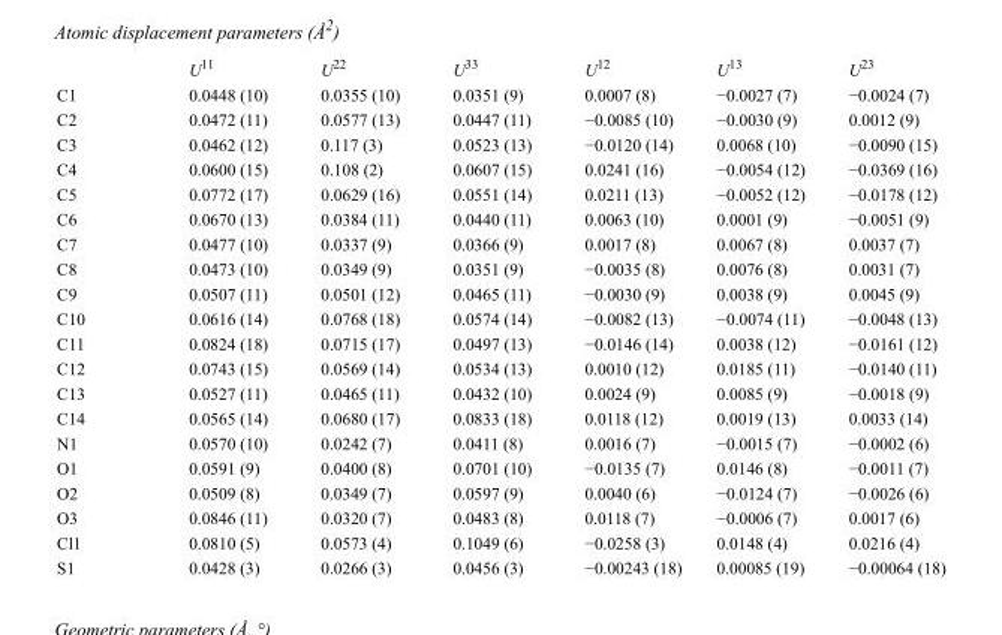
<table><thead><tr><td></td><td>U<sup>11</sup></td><td>U<sup>22</sup></td><td>U<sup>33</sup></td><td>U<sup>12</sup></td><td>U<sup>13</sup></td><td>U<sup>23</sup></td></tr></thead><tbody><tr><td>C1</td><td>0.0448 (10)</td><td>0.0355 (10)</td><td>0.0351 (9)</td><td>0.0007 (8)</td><td>−0.0027 (7)</td><td>−0.0024 (7)</td></tr><tr><td>C2</td><td>0.0472 (11)</td><td>0.0577 (13)</td><td>0.0447 (11)</td><td>−0.0085 (10)</td><td>−0.0030 (9)</td><td>0.0012 (9)</td></tr><tr><td>C3</td><td>0.0462 (12)</td><td>0.117 (3)</td><td>0.0523 (13)</td><td>−0.0120 (14)</td><td>0.0068 (10)</td><td>−0.0090 (15)</td></tr><tr><td>C4</td><td>0.0600 (15)</td><td>0.108 (2)</td><td>0.0607 (15)</td><td>0.0241 (16)</td><td>−0.0054 (12)</td><td>−0.0369 (16)</td></tr><tr><td>C5</td><td>0.0772 (17)</td><td>0.0629 (16)</td><td>0.0551 (14)</td><td>0.0211 (13)</td><td>−0.0052 (12)</td><td>−0.0178 (12)</td></tr><tr><td>C6</td><td>0.0670 (13)</td><td>0.0384 (11)</td><td>0.0440 (11)</td><td>0.0063 (10)</td><td>0.0001 (9)</td><td>−0.0051 (9)</td></tr><tr><td>C7</td><td>0.0477 (10)</td><td>0.0337 (9)</td><td>0.0366 (9)</td><td>0.0017 (8)</td><td>0.0067 (8)</td><td>0.0037 (7)</td></tr><tr><td>C8</td><td>0.0473 (10)</td><td>0.0349 (9)</td><td>0.0351 (9)</td><td>−0.0035 (8)</td><td>0.0076 (8)</td><td>0.0031 (7)</td></tr><tr><td>C9</td><td>0.0507 (11)</td><td>0.0501 (12)</td><td>0.0465 (11)</td><td>−0.0030 (9)</td><td>0.0038 (9)</td><td>0.0045 (9)</td></tr><tr><td>C10</td><td>0.0616 (14)</td><td>0.0768 (18)</td><td>0.0574 (14)</td><td>−0.0082 (13)</td><td>−0.0074 (11)</td><td>−0.0048 (13)</td></tr><tr><td>C11</td><td>0.0824 (18)</td><td>0.0715 (17)</td><td>0.0497 (13)</td><td>−0.0146 (14)</td><td>0.0038 (12)</td><td>−0.0161 (12)</td></tr><tr><td>C12</td><td>0.0743 (15)</td><td>0.0569 (14)</td><td>0.0534 (13)</td><td>0.0010 (12)</td><td>0.0185 (11)</td><td>−0.0140 (11)</td></tr><tr><td>C13</td><td>0.0527 (11)</td><td>0.0465 (11)</td><td>0.0432 (10)</td><td>0.0024 (9)</td><td>0.0085 (9)</td><td>−0.0018 (9)</td></tr><tr><td>C14</td><td>0.0565 (14)</td><td>0.0680 (17)</td><td>0.0833 (18)</td><td>0.0118 (12)</td><td>0.0019 (13)</td><td>0.0033 (14)</td></tr><tr><td>N1</td><td>0.0570 (10)</td><td>0.0242 (7)</td><td>0.0411 (8)</td><td>0.0016 (7)</td><td>−0.0015 (7)</td><td>−0.0002 (6)</td></tr><tr><td>O1</td><td>0.0591 (9)</td><td>0.0400 (8)</td><td>0.0701 (10)</td><td>−0.0135 (7)</td><td>0.0146 (8)</td><td>−0.0011 (7)</td></tr><tr><td>O2</td><td>0.0509 (8)</td><td>0.0349 (7)</td><td>0.0597 (9)</td><td>0.0040 (6)</td><td>−0.0124 (7)</td><td>−0.0026 (6)</td></tr><tr><td>O3</td><td>0.0846 (11)</td><td>0.0320 (7)</td><td>0.0483 (8)</td><td>0.0118 (7)</td><td>−0.0006 (7)</td><td>0.0017 (6)</td></tr><tr><td>Cl1</td><td>0.0810 (5)</td><td>0.0573 (4)</td><td>0.1049 (6)</td><td>−0.0258 (3)</td><td>0.0148 (4)</td><td>0.0216 (4)</td></tr><tr><td>S1</td><td>0.0428 (3)</td><td>0.0266 (3)</td><td>0.0456 (3)</td><td>−0.00243 (18)</td><td>0.00085 (19)</td><td>−0.00064 (18)</td></tr></tbody></table>